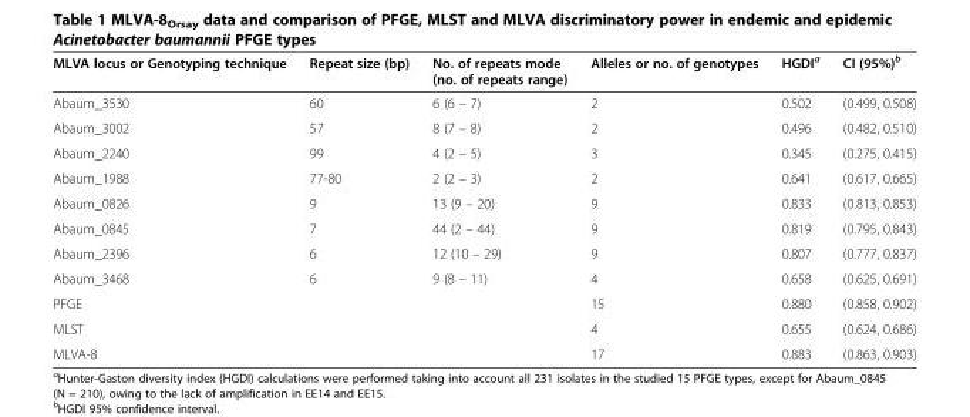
<table><thead><tr><td>MLVA locus or Genotyping technique</td><td>Repeat size (bp)</td><td>No. of repeats mode (no. of repeats range)</td><td>Alleles or no. of genotypes</td><td>HGDI<sup>a</sup></td><td>CI (95%)<sup>b</sup></td></tr></thead><tbody><tr><td>Abaum_3530</td><td>60</td><td>6 (6 – 7)</td><td>2</td><td>0.502</td><td>(0.499, 0.508)</td></tr><tr><td>Abaum_3002</td><td>57</td><td>8 (7 – 8)</td><td>2</td><td>0.496</td><td>(0.482, 0.510)</td></tr><tr><td>Abaum_2240</td><td>99</td><td>4 (2 – 5)</td><td>3</td><td>0.345</td><td>(0.275, 0.415)</td></tr><tr><td>Abaum_1988</td><td>77-80</td><td>2 (2 – 3)</td><td>2</td><td>0.641</td><td>(0.617, 0.665)</td></tr><tr><td>Abaum_0826</td><td>9</td><td>13 (9 – 20)</td><td>9</td><td>0.833</td><td>(0.813, 0.853)</td></tr><tr><td>Abaum_0845</td><td>7</td><td>44 (2 – 44)</td><td>9</td><td>0.819</td><td>(0.795, 0.843)</td></tr><tr><td>Abaum_2396</td><td>6</td><td>12 (10 – 29)</td><td>9</td><td>0.807</td><td>(0.777, 0.837)</td></tr><tr><td>Abaum_3468</td><td>6</td><td>9 (8 – 11)</td><td>4</td><td>0.658</td><td>(0.625, 0.691)</td></tr><tr><td>PFGE</td><td></td><td></td><td>15</td><td>0.880</td><td>(0.858, 0.902)</td></tr><tr><td>MLST</td><td></td><td></td><td>4</td><td>0.655</td><td>(0.624, 0.686)</td></tr><tr><td>MLVA-8</td><td></td><td></td><td>17</td><td>0.883</td><td>(0.863, 0.903)</td></tr></tbody></table>